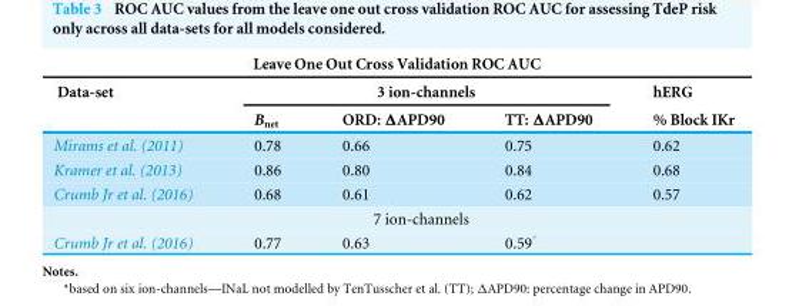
<table><thead><tr><td colspan="5">Leave One Out Cross Validation ROC AUC</td></tr><tr><td rowspan="2">Data-set</td><td colspan="3">3 ion-channels</td><td rowspan="2">hERG % Block IKr</td></tr><tr><td>B<sub>net</sub></td><td>ORD: ΔAPD90</td><td>TT: ΔAPD90</td></tr></thead><tbody><tr><td>Mirams et al. (2011)</td><td>0.78</td><td>0.66</td><td>0.75</td><td>0.62</td></tr><tr><td>Kramer et al. (2013)</td><td>0.86</td><td>0.80</td><td>0.84</td><td>0.68</td></tr><tr><td rowspan="2">Crumb Jr et al. (2016)</td><td>0.68</td><td>0.61</td><td>0.62</td><td>0.57</td></tr><tr><td colspan="3">7 ion-channels</td><td></td></tr><tr><td>Crumb Jr et al. (2016)</td><td>0.77</td><td>0.63</td><td>0.59*</td><td></td></tr></tbody></table>